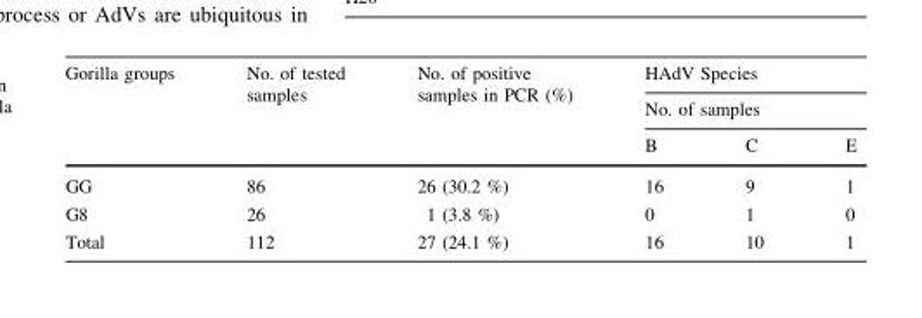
<table><thead><tr><td rowspan="3">Gorilla groups</td><td rowspan="3">No. of tested samples</td><td rowspan="3">No. of positive samples in PCR (%)</td><td rowspan="2" colspan="3">HAdV Species No. of samples</td></tr><tr></tr><tr><td>B</td><td>C</td><td>E</td></tr></thead><tbody><tr><td>GG</td><td>86</td><td>26 (30.2 %)</td><td>16</td><td>9</td><td>1</td></tr><tr><td>G8</td><td>26</td><td>1 (3.8 %)</td><td>0</td><td>1</td><td>0</td></tr><tr><td>Total</td><td>112</td><td>27 (24.1 %)</td><td>16</td><td>10</td><td>1</td></tr></tbody></table>